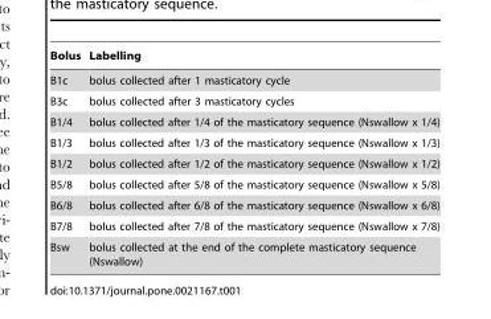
<table><thead><tr><td>Bolus</td><td>Labelling</td></tr></thead><tbody><tr><td>B1c</td><td>bolus collected after 1 masticatory cycle</td></tr><tr><td>B3c</td><td>bolus collected after 3 masticatory cycles</td></tr><tr><td>B1/4</td><td>bolus collected after 1/4 of the masticatory sequence (Nswallow x 1/4)</td></tr><tr><td>B1/3</td><td>bolus collected after 1/3 of the masticatory sequence (Nswallow x 1/3)</td></tr><tr><td>B1/2</td><td>bolus collected after 1/2 of the masticatory sequence (Nswallow x 1/2)</td></tr><tr><td>B5/8</td><td>bolus collected after 5/8 of the masticatory sequence (Nswallow x 5/8)</td></tr><tr><td>B6/8</td><td>bolus collected after 6/8 of the masticatory sequence (Nswallow x 6/8)</td></tr><tr><td>B7/8</td><td>bolus collected after 7/8 of the masticatory sequence (Nswallow x 7/8)</td></tr><tr><td>Bsw</td><td>bolus collected at the end of the complete masticatory sequence (Nswallow)</td></tr></tbody></table>